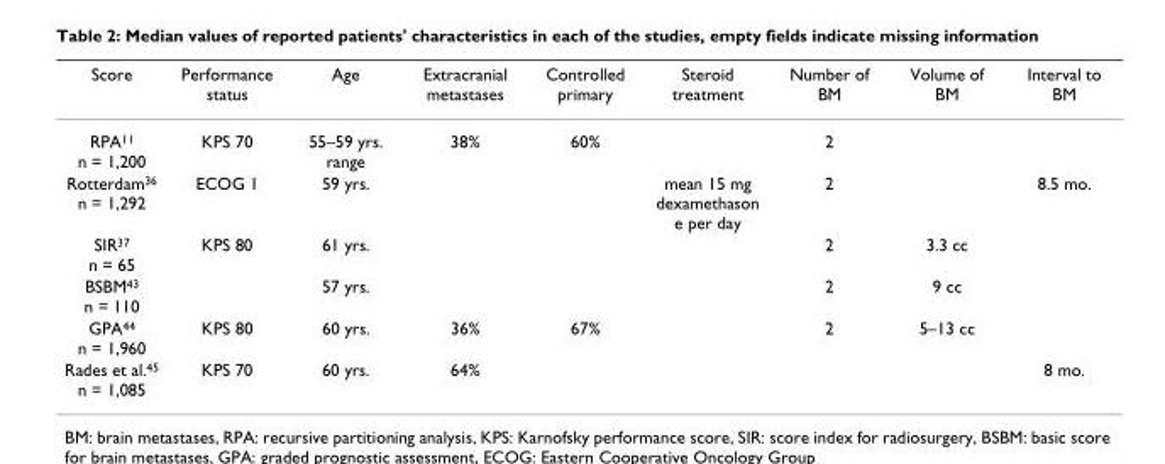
<table><thead><tr><td>Score</td><td>Performance status</td><td>Age</td><td>Extracranial metastases</td><td>Controlled primary</td><td>Steroid treatment</td><td>Number of BM</td><td>Volume of BM</td><td>Interval to BM</td></tr></thead><tbody><tr><td>RPA<sup>11</sup> n = 1,200</td><td>KPS 70</td><td>55–59 yrs. range</td><td>38%</td><td>60%</td><td></td><td>2</td><td></td><td></td></tr><tr><td>Rotterdam<sup>36</sup> n = 1,292</td><td>ECOG 1</td><td>59 yrs.</td><td></td><td></td><td>mean 15 mg dexamethason e per day</td><td>2</td><td></td><td>8.5 mo.</td></tr><tr><td>SIR<sup>37</sup> n = 65</td><td>KPS 80</td><td>61 yrs.</td><td></td><td></td><td></td><td>2</td><td>3.3 cc</td><td></td></tr><tr><td>BSBM<sup>43</sup> n = 110</td><td></td><td>57 yrs.</td><td></td><td></td><td></td><td>2</td><td>9 cc</td><td></td></tr><tr><td>GPA<sup>44</sup> n = 1,960</td><td>KPS 80</td><td>60 yrs.</td><td>36%</td><td>67%</td><td></td><td>2</td><td>5–13 cc</td><td></td></tr><tr><td>Rades et al.<sup>45</sup> n = 1,085</td><td>KPS 70</td><td>60 yrs.</td><td>64%</td><td></td><td></td><td></td><td></td><td>8 mo.</td></tr></tbody></table>